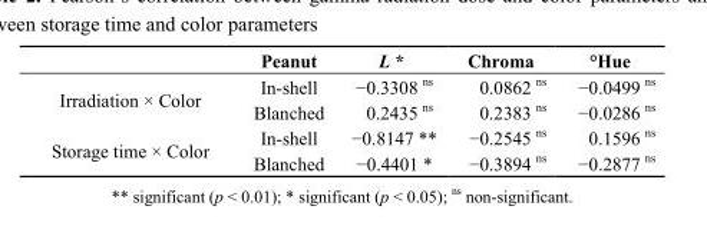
<table><thead><tr><td></td><td>Peanut</td><td>L *</td><td>Chroma</td><td>°Hue</td></tr></thead><tbody><tr><td rowspan="2">Irradiation × Color</td><td>In-shell</td><td>−0.3308 <sup>ns</sup></td><td>0.0862 <sup>ns</sup></td><td>−0.0499 <sup>ns</sup></td></tr><tr><td>Blanched</td><td>0.2435 <sup>ns</sup></td><td>0.2383 <sup>ns</sup></td><td>−0.0286 <sup>ns</sup></td></tr><tr><td rowspan="2">Storage time × Color</td><td>In-shell</td><td>−0.8147 **</td><td>−0.2545 <sup>ns</sup></td><td>0.1596 <sup>ns</sup></td></tr><tr><td>Blanched</td><td>−0.4401 *</td><td>−0.3894 <sup>ns</sup></td><td>−0.2877 <sup>ns</sup></td></tr></tbody></table>